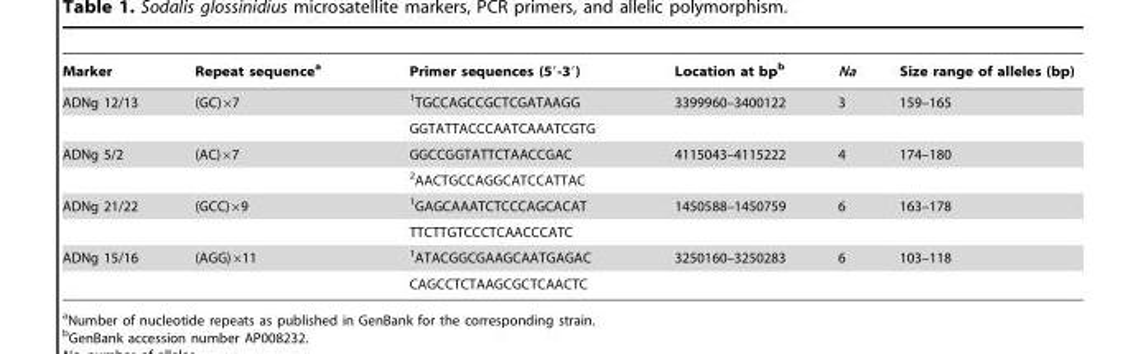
<table><thead><tr><td>Marker</td><td>Repeat sequence<sup>a</sup></td><td>Primer sequences (5′-3′)</td><td>Location at bp<sup>b</sup></td><td>Na</td><td>Size range of alleles (bp)</td></tr></thead><tbody><tr><td rowspan="2">ADNg 12/13</td><td>(GC)×7</td><td>1TGCCAGCCGCTCGATAAGG</td><td>3399960–3400122</td><td>3</td><td>159–165</td></tr><tr><td></td><td>GGTATTACCCAATCAAATCGTG</td><td></td><td></td><td></td></tr><tr><td rowspan="2">ADNg 5/2</td><td>(AC)×7</td><td>GGCCGGTATTCTAACCGAC</td><td>4115043–4115222</td><td>4</td><td>174–180</td></tr><tr><td></td><td>2AACTGCCAGGCATCCATTAC</td><td></td><td></td><td></td></tr><tr><td rowspan="2">ADNg 21/22</td><td>(GCC)×9</td><td>1GAGCAAATCTCCCAGCACAT</td><td>1450588–1450759</td><td>6</td><td>163–178</td></tr><tr><td></td><td>TTCTTGTCCCTCAACCCATC</td><td></td><td></td><td></td></tr><tr><td rowspan="2">ADNg 15/16</td><td>(AGG)×11</td><td>1ATACGGCGAAGCAATGAGAC</td><td>3250160–3250283</td><td>6</td><td>103–118</td></tr><tr><td></td><td>CAGCCTCTAAGCGCTCAACTC</td><td></td><td></td><td></td></tr></tbody></table>